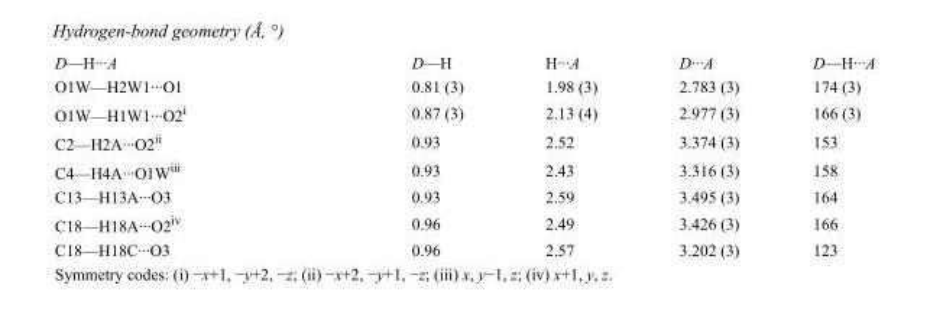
<table><tbody><tr><td>D—H···A</td><td>D—H</td><td>H···A</td><td>D···A</td><td>D—H···A</td></tr><tr><td>O1W—H2W1···O1</td><td>0.81 (3)</td><td>1.98 (3)</td><td>2.783 (3)</td><td>174 (3)</td></tr><tr><td>O1W—H1W1···O2<sup>i</sup></td><td>0.87 (3)</td><td>2.13 (4)</td><td>2.977 (3)</td><td>166 (3)</td></tr><tr><td>C2—H2A···O2<sup>ii</sup></td><td>0.93</td><td>2.52</td><td>3.374 (3)</td><td>153</td></tr><tr><td>C4—H4A···O1W<sup>iii</sup></td><td>0.93</td><td>2.43</td><td>3.316 (3)</td><td>158</td></tr><tr><td>C13—H13A···O3</td><td>0.93</td><td>2.59</td><td>3.495 (3)</td><td>164</td></tr><tr><td>C18—H18A···O2<sup>iv</sup></td><td>0.96</td><td>2.49</td><td>3.426 (3)</td><td>166</td></tr><tr><td>C18—H18C···O3</td><td>0.96</td><td>2.57</td><td>3.202 (3)</td><td>123</td></tr></tbody></table>